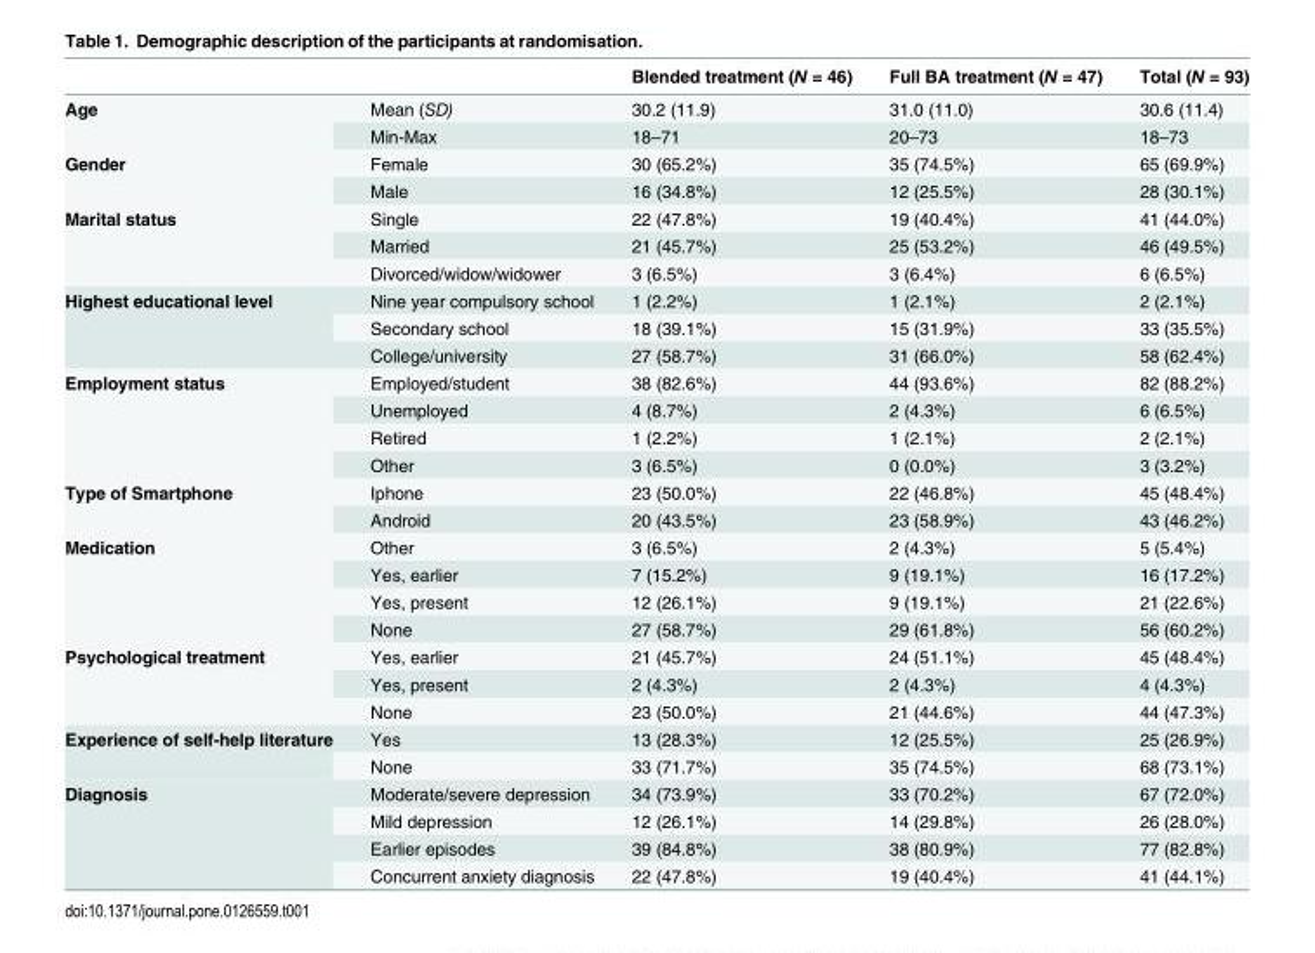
<table><thead><tr><td></td><td></td><td>Blended treatment (N = 46)</td><td>Full BA treatment (N = 47)</td><td>Total (N = 93)</td></tr></thead><tbody><tr><td rowspan="2">Age</td><td>Mean (SD)</td><td>30.2 (11.9)</td><td>31.0 (11.0)</td><td>30.6 (11.4)</td></tr><tr><td>Min-Max</td><td>18–71</td><td>20–73</td><td>18–73</td></tr><tr><td rowspan="2">Gender</td><td>Female</td><td>30 (65.2%)</td><td>35 (74.5%)</td><td>65 (69.9%)</td></tr><tr><td>Male</td><td>16 (34.8%)</td><td>12 (25.5%)</td><td>28 (30.1%)</td></tr><tr><td rowspan="3">Marital status</td><td>Single</td><td>22 (47.8%)</td><td>19 (40.4%)</td><td>41 (44.0%)</td></tr><tr><td>Married</td><td>21 (45.7%)</td><td>25 (53.2%)</td><td>46 (49.5%)</td></tr><tr><td>Divorced/widow/widower</td><td>3 (6.5%)</td><td>3 (6.4%)</td><td>6 (6.5%)</td></tr><tr><td rowspan="3">Highest educational level</td><td>Nine year compulsory school</td><td>1 (2.2%)</td><td>1 (2.1%)</td><td>2 (2.1%)</td></tr><tr><td>Secondary school</td><td>18 (39.1%)</td><td>15 (31.9%)</td><td>33 (35.5%)</td></tr><tr><td>College/university</td><td>27 (58.7%)</td><td>31 (66.0%)</td><td>58 (62.4%)</td></tr><tr><td rowspan="4">Employment status</td><td>Employed/student</td><td>38 (82.6%)</td><td>44 (93.6%)</td><td>82 (88.2%)</td></tr><tr><td>Unemployed</td><td>4 (8.7%)</td><td>2 (4.3%)</td><td>6 (6.5%)</td></tr><tr><td>Retired</td><td>1 (2.2%)</td><td>1 (2.1%)</td><td>2 (2.1%)</td></tr><tr><td>Other</td><td>3 (6.5%)</td><td>0 (0.0%)</td><td>3 (3.2%)</td></tr><tr><td rowspan="2">Type of Smartphone</td><td>Iphone</td><td>23 (50.0%)</td><td>22 (46.8%)</td><td>45 (48.4%)</td></tr><tr><td>Android</td><td>20 (43.5%)</td><td>23 (58.9%)</td><td>43 (46.2%)</td></tr><tr><td rowspan="4">Medication</td><td>Other</td><td>3 (6.5%)</td><td>2 (4.3%)</td><td>5 (5.4%)</td></tr><tr><td>Yes, earlier</td><td>7 (15.2%)</td><td>9 (19.1%)</td><td>16 (17.2%)</td></tr><tr><td>Yes, present</td><td>12 (26.1%)</td><td>9 (19.1%)</td><td>21 (22.6%)</td></tr><tr><td>None</td><td>27 (58.7%)</td><td>29 (61.8%)</td><td>56 (60.2%)</td></tr><tr><td rowspan="3">Psychological treatment</td><td>Yes, earlier</td><td>21 (45.7%)</td><td>24 (51.1%)</td><td>45 (48.4%)</td></tr><tr><td>Yes, present</td><td>2 (4.3%)</td><td>2 (4.3%)</td><td>4 (4.3%)</td></tr><tr><td>None</td><td>23 (50.0%)</td><td>21 (44.6%)</td><td>44 (47.3%)</td></tr><tr><td rowspan="2">Experience of self-help literature</td><td>Yes</td><td>13 (28.3%)</td><td>12 (25.5%)</td><td>25 (26.9%)</td></tr><tr><td>None</td><td>33 (71.7%)</td><td>35 (74.5%)</td><td>68 (73.1%)</td></tr><tr><td rowspan="4">Diagnosis</td><td>Moderate/severe depression</td><td>34 (73.9%)</td><td>33 (70.2%)</td><td>67 (72.0%)</td></tr><tr><td>Mild depression</td><td>12 (26.1%)</td><td>14 (29.8%)</td><td>26 (28.0%)</td></tr><tr><td>Earlier episodes</td><td>39 (84.8%)</td><td>38 (80.9%)</td><td>77 (82.8%)</td></tr><tr><td>Concurrent anxiety diagnosis</td><td>22 (47.8%)</td><td>19 (40.4%)</td><td>41 (44.1%)</td></tr></tbody></table>